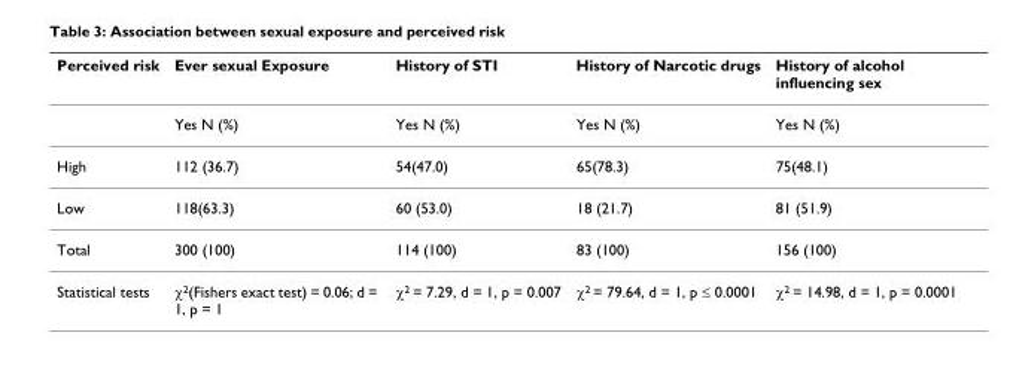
<table><thead><tr><td>Perceived risk</td><td>Ever sexual Exposure</td><td>History of STI</td><td>History of Narcotic drugs</td><td>History of alcohol influencing sex</td></tr></thead><tbody><tr><td></td><td>Yes N (%)</td><td>Yes N (%)</td><td>Yes N (%)</td><td>Yes N (%)</td></tr><tr><td>High</td><td>112 (36.7)</td><td>54(47.0)</td><td>65(78.3)</td><td>75(48.1)</td></tr><tr><td>Low</td><td>118(63.3)</td><td>60 (53.0)</td><td>18 (21.7)</td><td>81 (51.9)</td></tr><tr><td>Total</td><td>300 (100)</td><td>114 (100)</td><td>83 (100)</td><td>156 (100)</td></tr><tr><td>Statistical tests</td><td>χ<sup>2</sup>(Fishers exact test) = 0.06; d = 1, p = 1</td><td>χ<sup>2</sup> = 7.29, d = 1, p = 0.007</td><td>χ<sup>2</sup> = 79.64, d = 1, p ≤ 0.0001</td><td>χ<sup>2</sup> = 14.98, d = 1, p = 0.0001</td></tr></tbody></table>